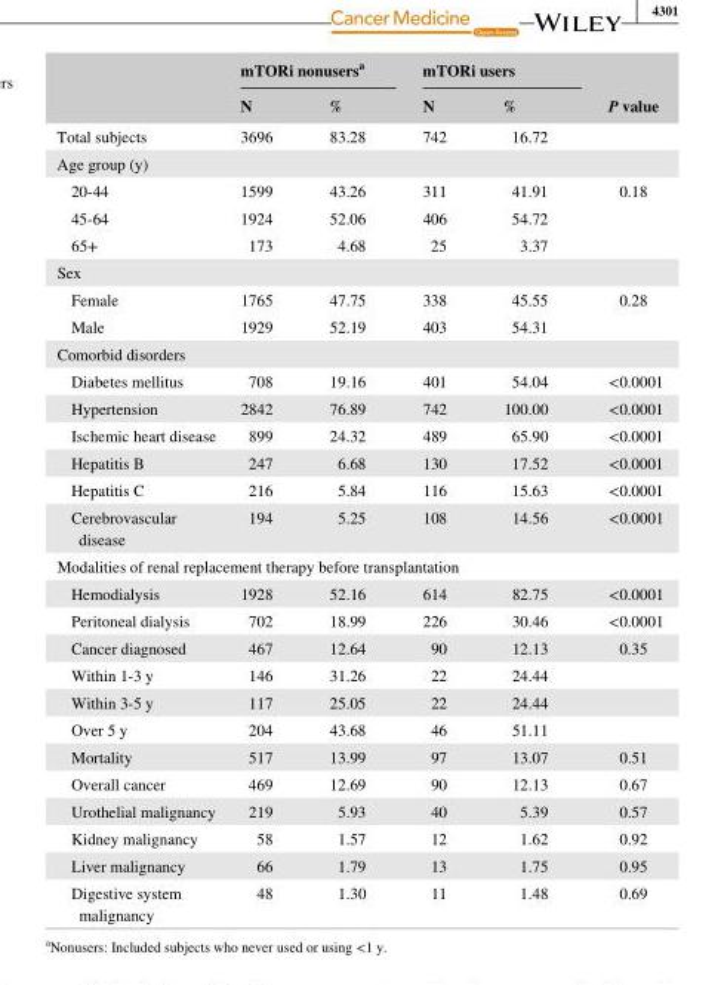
<table><thead><tr><td rowspan="2"></td><td colspan="2">mTORi nonusers<sup>a</sup></td><td colspan="2">mTORi users</td><td rowspan="2">P value</td></tr><tr><td>N</td><td>%</td><td>N</td><td>%</td></tr></thead><tbody><tr><td>Total subjects</td><td>3696</td><td>83.28</td><td>742</td><td>16.72</td><td></td></tr><tr><td colspan="6">Age group (y)</td></tr><tr><td>20- 44</td><td>1599</td><td>43.26</td><td>311</td><td>41.91</td><td>0.18</td></tr><tr><td>45- 64</td><td>1924</td><td>52.06</td><td>406</td><td>54.72</td><td></td></tr><tr><td>65+</td><td>173</td><td>4.68</td><td>25</td><td>3.37</td><td></td></tr><tr><td colspan="6">Sex</td></tr><tr><td>Female</td><td>1765</td><td>47.75</td><td>338</td><td>45.55</td><td>0.28</td></tr><tr><td>Male</td><td>1929</td><td>52.19</td><td>403</td><td>54.31</td><td></td></tr><tr><td colspan="6">Comorbid disorders</td></tr><tr><td>Diabetes mellitus</td><td>708</td><td>19.16</td><td>401</td><td>54.04</td><td>&lt;0.0001</td></tr><tr><td>Hypertension</td><td>2842</td><td>76.89</td><td>742</td><td>100.00</td><td>&lt;0.0001</td></tr><tr><td>Ischemic heart disease</td><td>899</td><td>24.32</td><td>489</td><td>65.90</td><td>&lt;0.0001</td></tr><tr><td>Hepatitis B</td><td>247</td><td>6.68</td><td>130</td><td>17.52</td><td>&lt;0.0001</td></tr><tr><td>Hepatitis C</td><td>216</td><td>5.84</td><td>116</td><td>15.63</td><td>&lt;0.0001</td></tr><tr><td>Cerebrovascular disease</td><td>194</td><td>5.25</td><td>108</td><td>14.56</td><td>&lt;0.0001</td></tr><tr><td colspan="6">Modalities of renal replacement therapy before transplantation</td></tr><tr><td>Hemodialysis</td><td>1928</td><td>52.16</td><td>614</td><td>82.75</td><td>&lt;0.0001</td></tr><tr><td>Peritoneal dialysis</td><td>702</td><td>18.99</td><td>226</td><td>30.46</td><td>&lt;0.0001</td></tr><tr><td>Cancer diagnosed</td><td>467</td><td>12.64</td><td>90</td><td>12.13</td><td>0.35</td></tr><tr><td>Within 1- 3 y</td><td>146</td><td>31.26</td><td>22</td><td>24.44</td><td></td></tr><tr><td>Within 3- 5 y</td><td>117</td><td>25.05</td><td>22</td><td>24.44</td><td></td></tr><tr><td>Over 5 y</td><td>204</td><td>43.68</td><td>46</td><td>51.11</td><td></td></tr><tr><td>Mortality</td><td>517</td><td>13.99</td><td>97</td><td>13.07</td><td>0.51</td></tr><tr><td>Overall cancer</td><td>469</td><td>12.69</td><td>90</td><td>12.13</td><td>0.67</td></tr><tr><td>Urothelial malignancy</td><td>219</td><td>5.93</td><td>40</td><td>5.39</td><td>0.57</td></tr><tr><td>Kidney malignancy</td><td>58</td><td>1.57</td><td>12</td><td>1.62</td><td>0.92</td></tr><tr><td>Liver malignancy</td><td>66</td><td>1.79</td><td>13</td><td>1.75</td><td>0.95</td></tr><tr><td>Digestive system malignancy</td><td>48</td><td>1.30</td><td>11</td><td>1.48</td><td>0.69</td></tr></tbody></table>